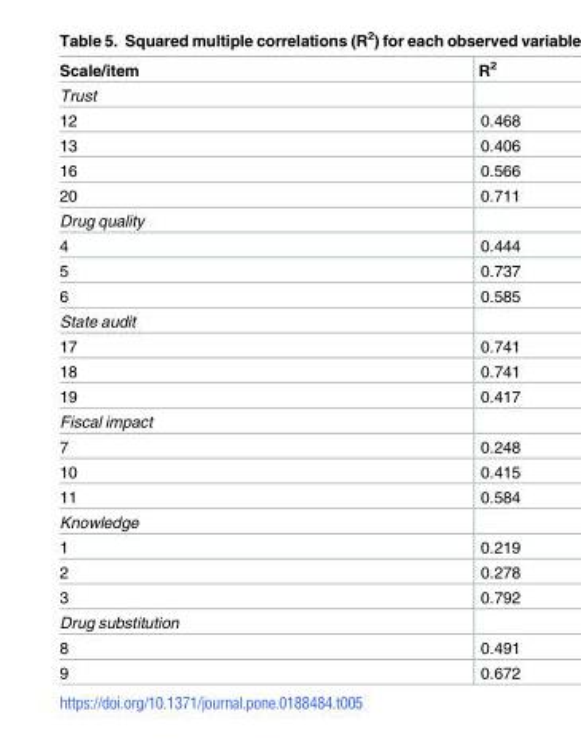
<table><thead><tr><td>Scale/item</td><td>R<sup>2</sup></td></tr></thead><tbody><tr><td colspan="2">Trust</td></tr><tr><td>12</td><td>0.468</td></tr><tr><td>13</td><td>0.406</td></tr><tr><td>16</td><td>0.566</td></tr><tr><td>20</td><td>0.711</td></tr><tr><td colspan="2">Drug quality</td></tr><tr><td>4</td><td>0.444</td></tr><tr><td>5</td><td>0.737</td></tr><tr><td>6</td><td>0.585</td></tr><tr><td colspan="2">State audit</td></tr><tr><td>17</td><td>0.741</td></tr><tr><td>18</td><td>0.741</td></tr><tr><td>19</td><td>0.417</td></tr><tr><td colspan="2">Fiscal impact</td></tr><tr><td>7</td><td>0.248</td></tr><tr><td>10</td><td>0.415</td></tr><tr><td>11</td><td>0.584</td></tr><tr><td colspan="2">Knowledge</td></tr><tr><td>1</td><td>0.219</td></tr><tr><td>2</td><td>0.278</td></tr><tr><td>3</td><td>0.792</td></tr><tr><td colspan="2">Drug substitution</td></tr><tr><td>8</td><td>0.491</td></tr><tr><td>9</td><td>0.672</td></tr></tbody></table>